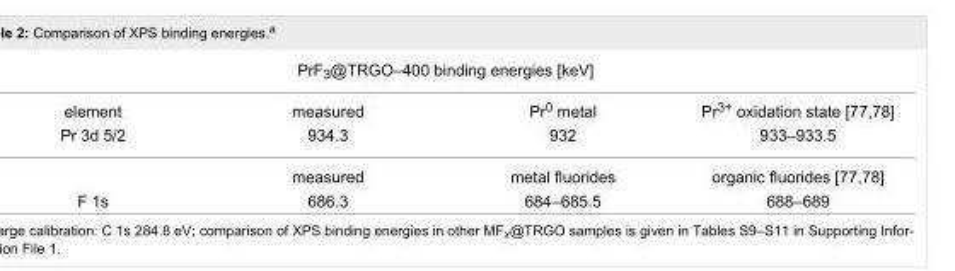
<table><tbody><tr><td colspan="4">PrF<sub>3</sub>@TRGO–400 binding energies [keV]</td></tr><tr><td>element</td><td>measured</td><td>Pr<sup>0</sup> metal</td><td>Pr<sup>3+</sup> oxidation state [77–78]</td></tr><tr><td rowspan="2">Pr 3d 5/2</td><td>934.3</td><td>932</td><td>933–933.5</td></tr><tr><td>measured</td><td>metal fluorides</td><td>organic fluorides [77–78]</td></tr><tr><td>F 1s</td><td>686.3</td><td>684–685.5</td><td>688–689</td></tr></tbody></table>